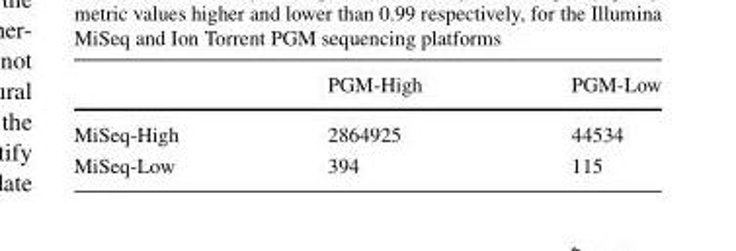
<table><thead><tr><td></td><td>PGM-High</td><td>PGM-Low</td></tr></thead><tbody><tr><td>MiSeq-High</td><td>2864925</td><td>44534</td></tr><tr><td>MiSeq-Low</td><td>394</td><td>115</td></tr></tbody></table>